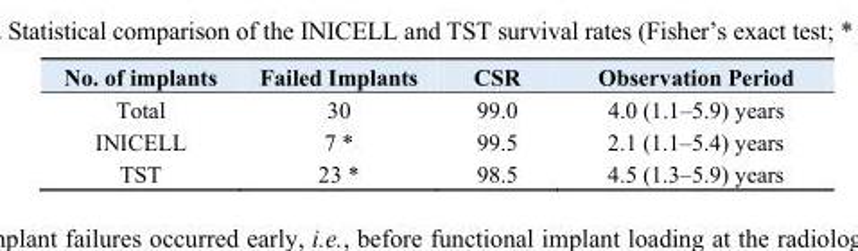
<table><thead><tr><td>No. of implants</td><td>Failed Implants</td><td>CSR</td><td>Observation Period</td></tr></thead><tbody><tr><td>Total</td><td>30</td><td>99.0</td><td>4.0 (1.1–5.9) years</td></tr><tr><td>INICELL</td><td>7 *</td><td>99.5</td><td>2.1 (1.1–5.4) years</td></tr><tr><td>TST</td><td>23 *</td><td>98.5</td><td>4.5 (1.3–5.9) years</td></tr></tbody></table>